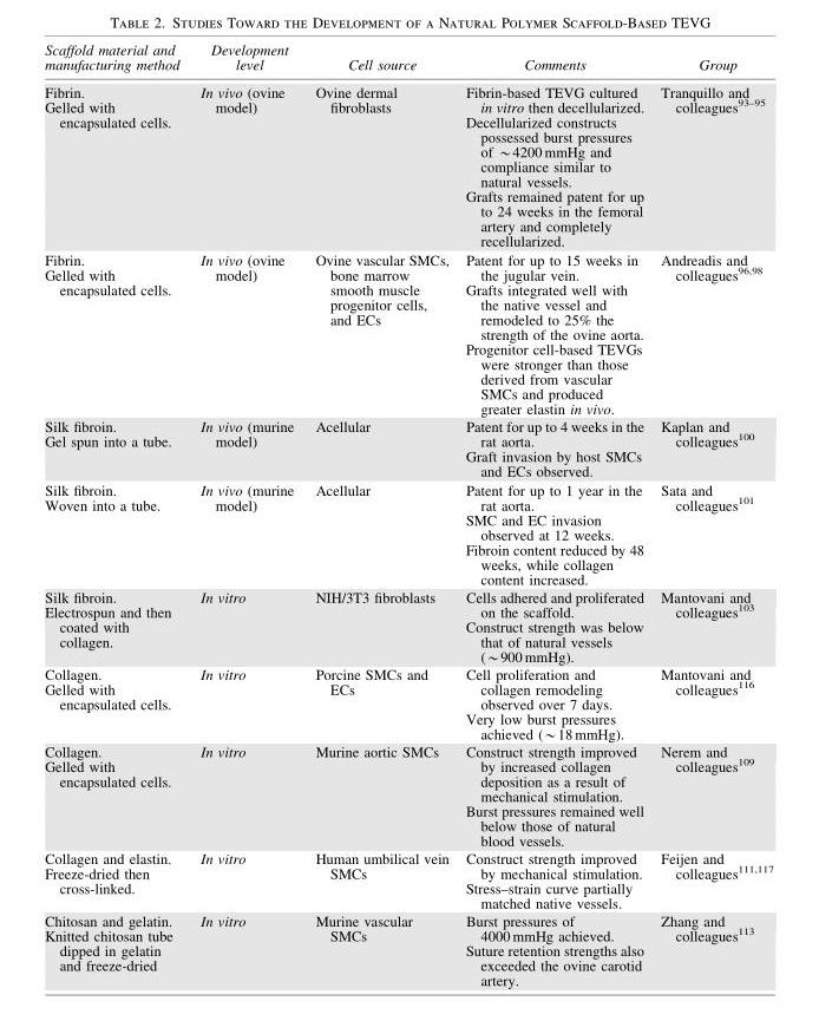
<table><thead><tr><td>Scaffold material and manufacturing method</td><td>Development level</td><td>Cell source</td><td>Comments</td><td>Group</td></tr></thead><tbody><tr><td>Fibrin. Gelled with encapsulated cells.</td><td>In vivo (ovine model)</td><td>Ovine dermal fibroblasts</td><td>Fibrin-based TEVG cultured in vitro then decellularized. Decellularized constructs possessed burst pressures of *4200 mmHg and compliance similar to natural vessels. Grafts remained patent for up to 24 weeks in the femoral artery and completely recellularized.</td><td>Tranquillo and colleagues<sup>93–95</sup></td></tr><tr><td>Fibrin. Gelled with encapsulated cells.</td><td>In vivo (ovine model)</td><td>Ovine vascular SMCs, bone marrow smooth muscle progenitor cells, and ECs</td><td>Patent for up to 15 weeks in the jugular vein. Grafts integrated well with the native vessel and remodeled to 25% the strength of the ovine aorta. Progenitor cell-based TEVGs were stronger than those derived from vascular SMCs and produced greater elastin in vivo.</td><td>Andreadis and colleagues<sup>96,98</sup></td></tr><tr><td>Silk fibroin. Gel spun into a tube.</td><td>In vivo (murine model)</td><td>Acellular</td><td>Patent for up to 4 weeks in the rat aorta. Graft invasion by host SMCs and ECs observed.</td><td>Kaplan and colleagues<sup>100</sup></td></tr><tr><td>Silk fibroin. Woven into a tube.</td><td>In vivo (murine model)</td><td>Acellular</td><td>Patent for up to 1 year in the rat aorta. SMC and EC invasion observed at 12 weeks. Fibroin content reduced by 48 weeks, while collagen content increased.</td><td>Sata and colleagues<sup>101</sup></td></tr><tr><td>Silk fibroin. Electrospun and then coated with collagen.</td><td>In vitro</td><td>NIH/3T3 fibroblasts</td><td>Cells adhered and proliferated on the scaffold. Construct strength was below that of natural vessels (*900 mmHg).</td><td>Mantovani and colleagues<sup>103</sup></td></tr><tr><td>Collagen. Gelled with encapsulated cells.</td><td>In vitro</td><td>Porcine SMCs and ECs</td><td>Cell proliferation and collagen remodeling observed over 7 days. Very low burst pressures achieved (*18 mmHg).</td><td>Mantovani and colleagues<sup>116</sup></td></tr><tr><td>Collagen. Gelled with encapsulated cells.</td><td>In vitro</td><td>Murine aortic SMCs</td><td>Construct strength improved by increased collagen deposition as a result of mechanical stimulation. Burst pressures remained well below those of natural blood vessels.</td><td>Nerem and colleagues<sup>109</sup></td></tr><tr><td>Collagen and elastin. Freeze-dried then cross-linked.</td><td>In vitro</td><td>Human umbilical vein SMCs</td><td>Construct strength improved by mechanical stimulation. Stress–strain curve partially matched native vessels.</td><td>Feijen and colleagues<sup>111,117</sup></td></tr><tr><td>Chitosan and gelatin. Knitted chitosan tube dipped in gelatin and freeze-dried</td><td>In vitro</td><td>Murine vascular SMCs</td><td>Burst pressures of 4000 mmHg achieved. Suture retention strengths also exceeded the ovine carotid artery.</td><td>Zhang and colleagues<sup>113</sup></td></tr></tbody></table>